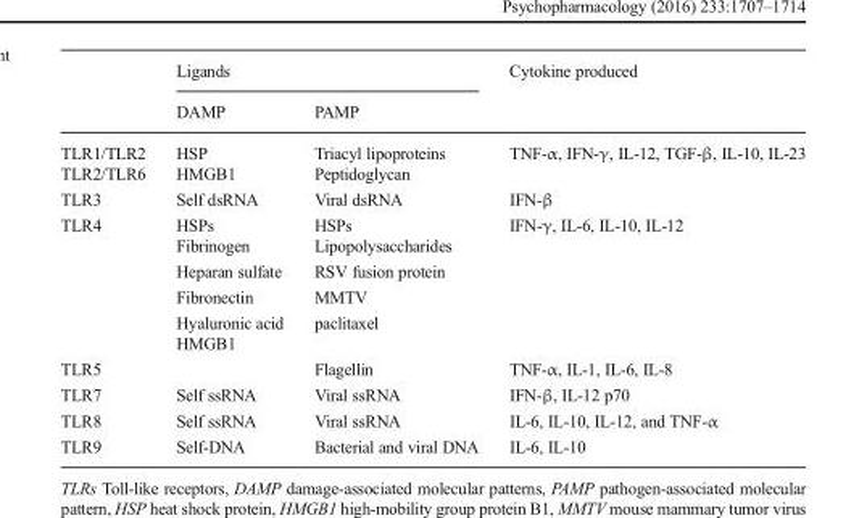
<table><thead><tr><td rowspan="2"></td><td colspan="2">Ligands</td><td rowspan="2">Cytokine produced</td></tr><tr><td>DAMP</td><td>PAMP</td></tr></thead><tbody><tr><td>TLR1/TLR2</td><td>HSP</td><td>Triacyl lipoproteins</td><td rowspan="2">TNF-α, IFN-γ, IL-12, TGF-β, IL-10, IL-23</td></tr><tr><td>TLR2/TLR6</td><td>HMGB1</td><td>Peptidoglycan</td></tr><tr><td>TLR3</td><td>Self dsRNA</td><td>Viral dsRNA</td><td>IFN-β</td></tr><tr><td rowspan="6">TLR4</td><td>HSPs</td><td>HSPs</td><td rowspan="6">IFN-γ, IL-6, IL-10, IL-12</td></tr><tr><td>Fibrinogen</td><td>Lipopolysaccharides</td></tr><tr><td>Heparan sulfate</td><td>RSV fusion protein</td></tr><tr><td>Fibronectin</td><td>MMTV</td></tr><tr><td>Hyaluronic acid</td><td rowspan="2">paclitaxel</td></tr><tr><td>HMGB1</td></tr><tr><td>TLR5</td><td></td><td>Flagellin</td><td>TNF-α, IL-1, IL-6, IL-8</td></tr><tr><td>TLR7</td><td>Self ssRNA</td><td>Viral ssRNA</td><td>IFN-β, IL-12 p70</td></tr><tr><td>TLR8</td><td>Self ssRNA</td><td>Viral ssRNA</td><td>IL-6, IL-10, IL-12, and TNF-α</td></tr><tr><td>TLR9</td><td>Self-DNA</td><td>Bacterial and viral DNA</td><td>IL-6, IL-10</td></tr></tbody></table>